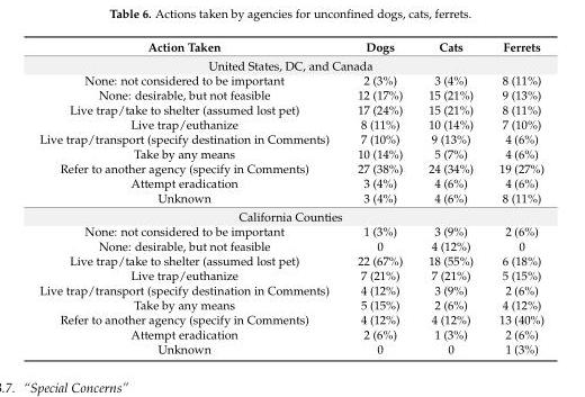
<table><thead><tr><td>Action Taken</td><td>Dogs</td><td>Cats</td><td>Ferrets</td></tr></thead><tbody><tr><td colspan="4">United States, DC, and Canada</td></tr><tr><td>None: not considered to be important</td><td>2 (3%)</td><td>3 (4%)</td><td>8 (11%)</td></tr><tr><td>None: desirable, but not feasible</td><td>12 (17%)</td><td>15 (21%)</td><td>9 (13%)</td></tr><tr><td>Live trap/take to shelter (assumed lost pet)</td><td>17 (24%)</td><td>15 (21%)</td><td>8 (11%)</td></tr><tr><td>Live trap/euthanize</td><td>8 (11%)</td><td>10 (14%)</td><td>7 (10%)</td></tr><tr><td>Live trap/transport (specify destination in Comments)</td><td>7 (10%)</td><td>9 (13%)</td><td>4 (6%)</td></tr><tr><td>Take by any means</td><td>10 (14%)</td><td>5 (7%)</td><td>4 (6%)</td></tr><tr><td>Refer to another agency (specify in Comments)</td><td>27 (38%)</td><td>24 (34%)</td><td>19 (27%)</td></tr><tr><td>Attempt eradication</td><td>3 (4%)</td><td>4 (6%)</td><td>4 (6%)</td></tr><tr><td>Unknown</td><td>3 (4%)</td><td>4 (6%)</td><td>8 (11%)</td></tr><tr><td colspan="4">California Counties</td></tr><tr><td>None: not considered to be important</td><td>1 (3%)</td><td>3 (9%)</td><td>2 (6%)</td></tr><tr><td>None: desirable, but not feasible</td><td>0</td><td>4 (12%)</td><td>0</td></tr><tr><td>Live trap/take to shelter (assumed lost pet)</td><td>22 (67%)</td><td>18 (55%)</td><td>6 (18%)</td></tr><tr><td>Live trap/euthanize</td><td>7 (21%)</td><td>7 (21%)</td><td>5 (15%)</td></tr><tr><td>Live trap/transport (specify destination in Comments)</td><td>4 (12%)</td><td>3 (9%)</td><td>2 (6%)</td></tr><tr><td>Take by any means</td><td>5 (15%)</td><td>2 (6%)</td><td>4 (12%)</td></tr><tr><td>Refer to another agency (specify in Comments)</td><td>4 (12%)</td><td>4 (12%)</td><td>13 (40%)</td></tr><tr><td>Attempt eradication</td><td>2 (6%)</td><td>1 (3%)</td><td>2 (6%)</td></tr><tr><td>Unknown</td><td>0</td><td>0</td><td>1 (3%)</td></tr></tbody></table>